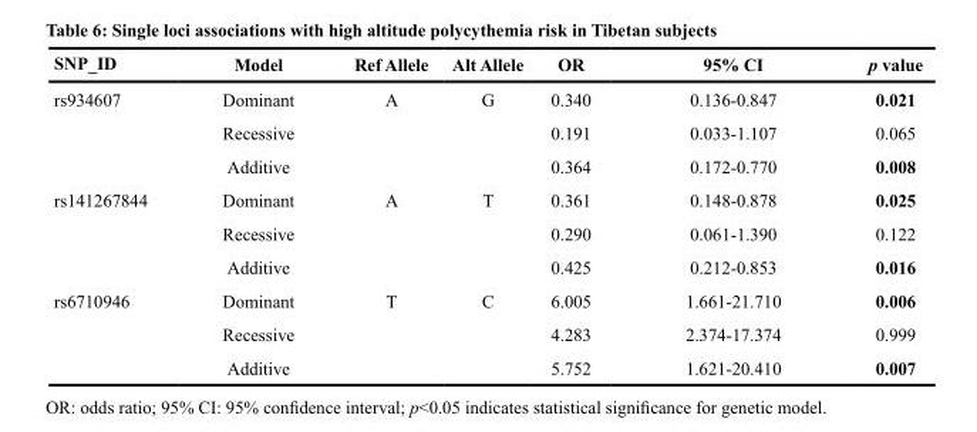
<table><thead><tr><td>SNP_ID</td><td>Model</td><td>Ref Allele</td><td>Alt Allele</td><td>OR</td><td>95% CI</td><td>p value</td></tr></thead><tbody><tr><td rowspan="3">rs934607</td><td>Dominant</td><td>A</td><td>G</td><td>0.340</td><td>0.136-0.847</td><td>0.021</td></tr><tr><td>Recessive</td><td></td><td></td><td>0.191</td><td>0.033-1.107</td><td>0.065</td></tr><tr><td>Additive</td><td></td><td></td><td>0.364</td><td>0.172-0.770</td><td>0.008</td></tr><tr><td rowspan="3">rs141267844</td><td>Dominant</td><td>A</td><td>T</td><td>0.361</td><td>0.148-0.878</td><td>0.025</td></tr><tr><td>Recessive</td><td></td><td></td><td>0.290</td><td>0.061-1.390</td><td>0.122</td></tr><tr><td>Additive</td><td></td><td></td><td>0.425</td><td>0.212-0.853</td><td>0.016</td></tr><tr><td rowspan="3">rs6710946</td><td>Dominant</td><td>T</td><td>C</td><td>6.005</td><td>1.661-21.710</td><td>0.006</td></tr><tr><td>Recessive</td><td></td><td></td><td>4.283</td><td>2.374-17.374</td><td>0.999</td></tr><tr><td>Additive</td><td></td><td></td><td>5.752</td><td>1.621-20.410</td><td>0.007</td></tr></tbody></table>